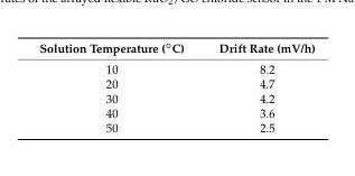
<table><thead><tr><td>Solution Temperature (◦C)</td><td>Drift Rate (mV/h)</td></tr></thead><tbody><tr><td>10</td><td>8.2</td></tr><tr><td>20</td><td>4.7</td></tr><tr><td>30</td><td>4.2</td></tr><tr><td>40</td><td>3.6</td></tr><tr><td>50</td><td>2.5</td></tr></tbody></table>